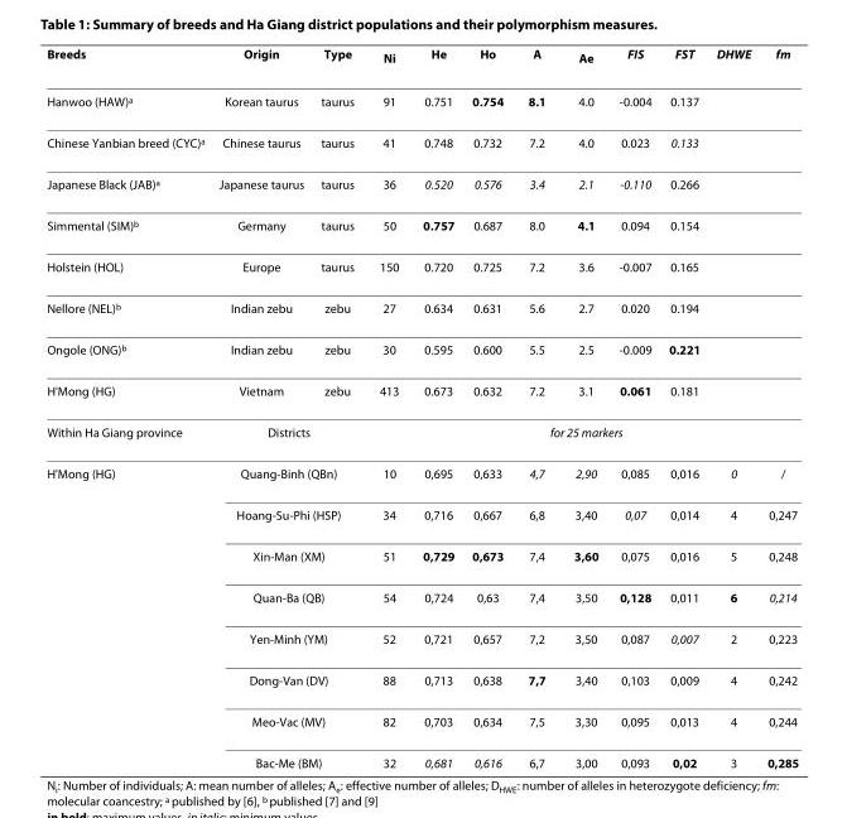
<table><thead><tr><td>Breeds</td><td>Origin</td><td>Type</td><td>N<sub>i</sub></td><td>He</td><td>Ho</td><td>A</td><td>A<sub>e</sub></td><td>F<sub>IS</sub></td><td>F<sub>ST</sub></td><td>D<sub>HWE</sub></td><td>fm</td></tr></thead><tbody><tr><td>Hanwoo (HAW)<sup>a</sup></td><td>Korean taurus</td><td>taurus</td><td>91</td><td>0.751</td><td>0.754</td><td>8.1</td><td>4.0</td><td>-0.004</td><td>0.137</td><td></td><td></td></tr><tr><td>Chinese Yanbian breed (CYC)<sup>a</sup></td><td>Chinese taurus</td><td>taurus</td><td>41</td><td>0.748</td><td>0.732</td><td>7.2</td><td>4.0</td><td>0.023</td><td>0.133</td><td></td><td></td></tr><tr><td>Japanese Black (JAB)<sup>a</sup></td><td>Japanese taurus</td><td>taurus</td><td>36</td><td>0.520</td><td>0.576</td><td>3.4</td><td>2.1</td><td>-0.110</td><td>0.266</td><td></td><td></td></tr><tr><td>Simmental (SIM)<sup>b</sup></td><td>Germany</td><td>taurus</td><td>50</td><td>0.757</td><td>0.687</td><td>8.0</td><td>4.1</td><td>0.094</td><td>0.154</td><td></td><td></td></tr><tr><td>Holstein (HOL)</td><td>Europe</td><td>taurus</td><td>150</td><td>0.720</td><td>0.725</td><td>7.2</td><td>3.6</td><td>-0.007</td><td>0.165</td><td></td><td></td></tr><tr><td>Nellore (NEL)<sup>b</sup></td><td>Indian zebu</td><td>zebu</td><td>27</td><td>0.634</td><td>0.631</td><td>5.6</td><td>2.7</td><td>0.020</td><td>0.194</td><td></td><td></td></tr><tr><td>Ongole (ONG)<sup>b</sup></td><td>Indian zebu</td><td>zebu</td><td>30</td><td>0.595</td><td>0.600</td><td>5.5</td><td>2.5</td><td>-0.009</td><td>0.221</td><td></td><td></td></tr><tr><td>H&#x27;Mong (HG)</td><td>Vietnam</td><td>zebu</td><td>413</td><td>0.673</td><td>0.632</td><td>7.2</td><td>3.1</td><td>0.061</td><td>0.181</td><td></td><td></td></tr><tr><td>Within Ha Giang province</td><td colspan="2">Districts</td><td colspan="9">for 25 markers</td></tr><tr><td rowspan="8">H&#x27;Mong (HG)</td><td colspan="2">Quang-Binh (QBn)</td><td>10</td><td>0,695</td><td>0,633</td><td>4,7</td><td>2,90</td><td>0,085</td><td>0,016</td><td>0</td><td>/</td></tr><tr><td colspan="2">Hoang-Su-Phi (HSP)</td><td>34</td><td>0,716</td><td>0,667</td><td>6,8</td><td>3,40</td><td>0,07</td><td>0,014</td><td>4</td><td>0,247</td></tr><tr><td colspan="2">Xin-Man (XM)</td><td>51</td><td>0,729</td><td>0,673</td><td>7,4</td><td>3,60</td><td>0,075</td><td>0,016</td><td>5</td><td>0,248</td></tr><tr><td colspan="2">Quan-Ba (QB)</td><td>54</td><td>0,724</td><td>0,63</td><td>7,4</td><td>3,50</td><td>0,128</td><td>0,011</td><td>6</td><td>0,214</td></tr><tr><td colspan="2">Yen-Minh (YM)</td><td>52</td><td>0,721</td><td>0,657</td><td>7,2</td><td>3,50</td><td>0,087</td><td>0,007</td><td>2</td><td>0,223</td></tr><tr><td colspan="2">Dong-Van (DV)</td><td>88</td><td>0,713</td><td>0,638</td><td>7,7</td><td>3,40</td><td>0,103</td><td>0,009</td><td>4</td><td>0,242</td></tr><tr><td colspan="2">Meo-Vac (MV)</td><td>82</td><td>0,703</td><td>0,634</td><td>7,5</td><td>3,30</td><td>0,095</td><td>0,013</td><td>4</td><td>0,244</td></tr><tr><td colspan="2">Bac-Me (BM)</td><td>32</td><td>0,681</td><td>0,616</td><td>6,7</td><td>3,00</td><td>0,093</td><td>0,02</td><td>3</td><td>0,285</td></tr></tbody></table>